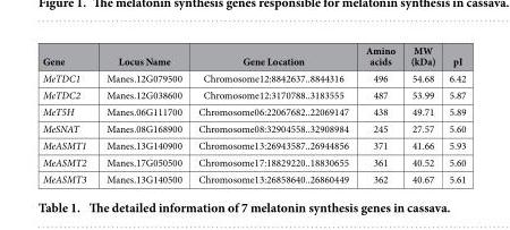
<table><thead><tr><td>Gene</td><td>Locus Name</td><td>Gene Location</td><td>Amino acids</td><td>MW (kDa)</td><td>pI</td></tr></thead><tbody><tr><td>MeTDC1</td><td>Manes.12G079500</td><td>Chromosome12:8842637..8844316</td><td>496</td><td>54.68</td><td>6.42</td></tr><tr><td>MeTDC2</td><td>Manes.12G038600</td><td>Chromosome12:3170788..3183555</td><td>487</td><td>53.99</td><td>5.87</td></tr><tr><td>MeT5H</td><td>Manes.06G111700</td><td>Chromosome06:22067682..22069147</td><td>438</td><td>49.71</td><td>5.89</td></tr><tr><td>MeSNAT</td><td>Manes.08G168900</td><td>Chromosome08:32904558..32908984</td><td>245</td><td>27.57</td><td>5.60</td></tr><tr><td>MeASMT1</td><td>Manes.13G140900</td><td>Chromosome13:26943587..26944856</td><td>371</td><td>41.66</td><td>5.93</td></tr><tr><td>MeASMT2</td><td>Manes.17G050500</td><td>Chromosome17:18829220..18830655</td><td>361</td><td>40.52</td><td>5.60</td></tr><tr><td>MeASMT3</td><td>Manes.13G140500</td><td>Chromosome13:26858640..26860449</td><td>362</td><td>40.67</td><td>5.61</td></tr></tbody></table>